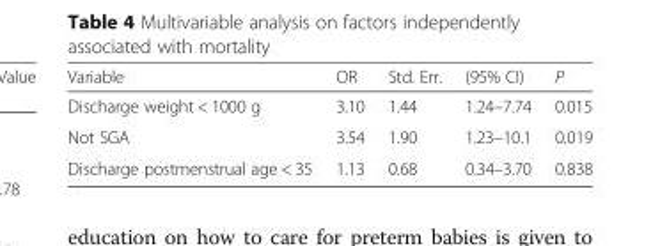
<table><thead><tr><td>Variable</td><td>OR</td><td>Std. Err.</td><td>(95% CI)</td><td>P</td></tr></thead><tbody><tr><td>Discharge weight &lt; 1000 g</td><td>3.10</td><td>1.44</td><td>1.24–7.74</td><td>0.015</td></tr><tr><td>Not SGA</td><td>3.54</td><td>1.90</td><td>1.23–10.1</td><td>0.019</td></tr><tr><td>Discharge postmenstrual age &lt; 35</td><td>1.13</td><td>0.68</td><td>0.34–3.70</td><td>0.838</td></tr></tbody></table>